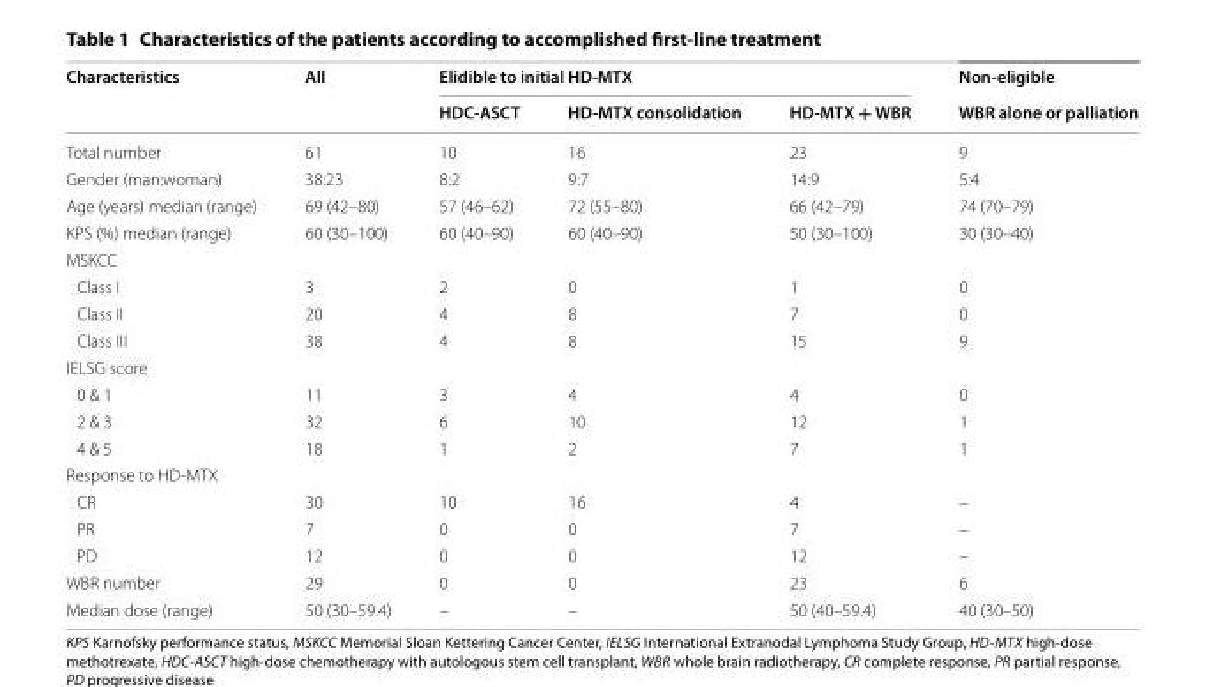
<table><thead><tr><td rowspan="2">Characteristics</td><td rowspan="2">All</td><td colspan="3">Elidible to initial HD‑MTX</td><td rowspan="2">Non‑eligible WBR alone or palliation</td></tr><tr><td>HDC‑ASCT</td><td>HD‑MTX consolidation</td><td>HD‑MTX + WBR</td></tr></thead><tbody><tr><td>Total number</td><td>61</td><td>10</td><td>16</td><td>23</td><td>9</td></tr><tr><td>Gender (man:woman)</td><td>38:23</td><td>8:2</td><td>9:7</td><td>14:9</td><td>5:4</td></tr><tr><td>Age (years) median (range)</td><td>69 (42–80)</td><td>57 (46–62)</td><td>72 (55–80)</td><td>66 (42–79)</td><td>74 (70–79)</td></tr><tr><td>KPS (%) median (range)</td><td>60 (30–100)</td><td>60 (40–90)</td><td>60 (40–90)</td><td>50 (30–100)</td><td>30 (30–40)</td></tr><tr><td colspan="6">MSKCC</td></tr><tr><td>Class I</td><td>3</td><td>2</td><td>0</td><td>1</td><td>0</td></tr><tr><td>Class II</td><td>20</td><td>4</td><td>8</td><td>7</td><td>0</td></tr><tr><td>Class III</td><td>38</td><td>4</td><td>8</td><td>15</td><td>9</td></tr><tr><td colspan="6">IELSG score</td></tr><tr><td>0 &amp; 1</td><td>11</td><td>3</td><td>4</td><td>4</td><td>0</td></tr><tr><td>2 &amp; 3</td><td>32</td><td>6</td><td>10</td><td>12</td><td>1</td></tr><tr><td>4 &amp; 5</td><td>18</td><td>1</td><td>2</td><td>7</td><td>1</td></tr><tr><td colspan="6">Response to HD-MTX</td></tr><tr><td>CR</td><td>30</td><td>10</td><td>16</td><td>4</td><td>–</td></tr><tr><td>PR</td><td>7</td><td>0</td><td>0</td><td>7</td><td>–</td></tr><tr><td>PD</td><td>12</td><td>0</td><td>0</td><td>12</td><td>–</td></tr><tr><td>WBR number</td><td>29</td><td>0</td><td>0</td><td>23</td><td>6</td></tr><tr><td>Median dose (range)</td><td>50 (30–59.4)</td><td>–</td><td>–</td><td>50 (40–59.4)</td><td>40 (30–50)</td></tr></tbody></table>